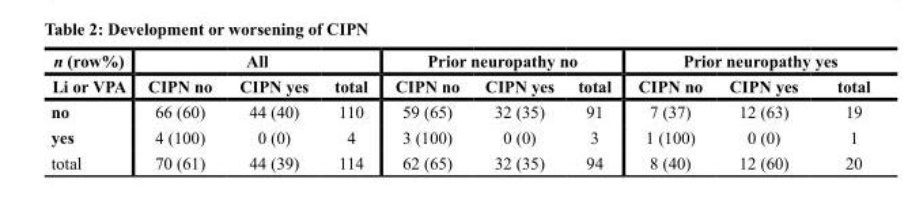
<table><thead><tr><td rowspan="2">n (row%) Li or VPA</td><td colspan="3">All</td><td colspan="3">Prior neuropathy no</td><td colspan="3">Prior neuropathy yes</td></tr><tr><td>CIPN no</td><td>CIPN yes</td><td>total</td><td>CIPN no</td><td>CIPN yes</td><td>total</td><td>CIPN no</td><td>CIPN yes</td><td>total</td></tr></thead><tbody><tr><td>no</td><td>66 (60)</td><td>44 (40)</td><td>110</td><td>59 (65)</td><td>32 (35)</td><td>91</td><td>7 (37)</td><td>12 (63)</td><td>19</td></tr><tr><td>yes</td><td>4 (100)</td><td>0 (0)</td><td>4</td><td>3 (100)</td><td>0 (0)</td><td>3</td><td>1 (100)</td><td>0 (0)</td><td>1</td></tr><tr><td>total</td><td>70 (61)</td><td>44 (39)</td><td>114</td><td>62 (65)</td><td>32 (35)</td><td>94</td><td>8 (40)</td><td>12 (60)</td><td>20</td></tr></tbody></table>